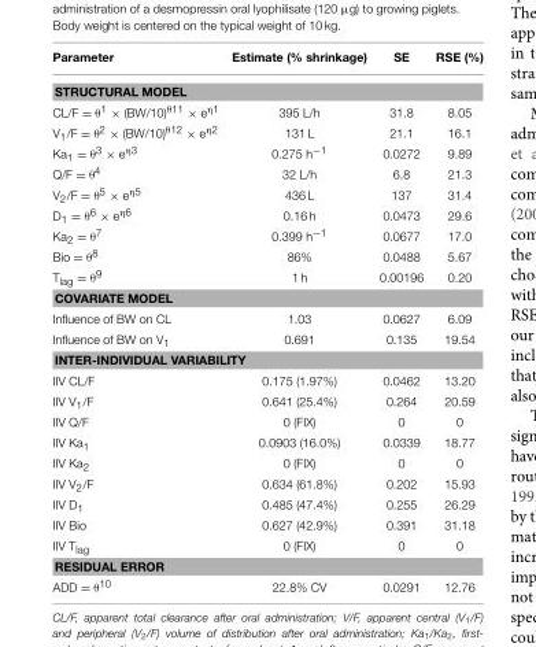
<table><thead><tr><td>Parameter</td><td>Estimate (% shrinkage)</td><td>SE</td><td>RSE (%)</td></tr></thead><tbody><tr><td colspan="4">STRUCTURAL MODEL</td></tr><tr><td>CL/F = θ<sup>1</sup> × (BW/10)<sup>θ11</sup> × e<sup>η1</sup></td><td>395 L/h</td><td>31.8</td><td>8.05</td></tr><tr><td>V<sub>1</sub>/F = θ<sup>2</sup> × (BW/10)<sup>θ12</sup> × e<sup>η2</sup></td><td>131 L</td><td>21.1</td><td>16.1</td></tr><tr><td>Ka<sub>1</sub> = θ<sup>3</sup> × e<sup>η3</sup></td><td>0.275 h<sup>−1</sup></td><td>0.0272</td><td>9.89</td></tr><tr><td>Q/F = θ<sup>4</sup></td><td>32 L/h</td><td>6.8</td><td>21.3</td></tr><tr><td>V<sub>2</sub>/F = θ<sup>5</sup> × e<sup>η5</sup></td><td>436 L</td><td>137</td><td>31.4</td></tr><tr><td>D<sub>1</sub> = θ<sup>6</sup> × e<sup>η6</sup></td><td>0.16 h</td><td>0.0473</td><td>29.6</td></tr><tr><td>Ka<sub>2</sub> = θ<sup>7</sup></td><td>0.399 h<sup>−1</sup></td><td>0.0677</td><td>17.0</td></tr><tr><td>Bio = θ<sup>8</sup></td><td>86%</td><td>0.0488</td><td>5.67</td></tr><tr><td>T<sub>lag</sub> = θ<sup>9</sup></td><td>1 h</td><td>0.00196</td><td>0.20</td></tr><tr><td colspan="4">COVARIATE MODEL</td></tr><tr><td>Influence of BW on CL</td><td>1.03</td><td>0.0627</td><td>6.09</td></tr><tr><td>Influence of BW on V<sub>1</sub></td><td>0.691</td><td>0.135</td><td>19.54</td></tr><tr><td colspan="4">INTER-INDIVIDUAL VARIABILITY</td></tr><tr><td>IIV CL/F</td><td>0.175 (1.97%)</td><td>0.0462</td><td>13.20</td></tr><tr><td>IIV V<sub>1</sub>/F</td><td>0.641 (25.4%)</td><td>0.264</td><td>20.59</td></tr><tr><td>IIV Q/F</td><td>0 (FIX)</td><td>0</td><td>0</td></tr><tr><td>IIV Ka<sub>1</sub></td><td>0.0903 (16.0%)</td><td>0.0339</td><td>18.77</td></tr><tr><td>IIV Ka<sub>2</sub></td><td>0 (FIX)</td><td>0</td><td>0</td></tr><tr><td>IIV V<sub>2</sub>/F</td><td>0.634 (61.8%)</td><td>0.202</td><td>15.93</td></tr><tr><td>IIV D<sub>1</sub></td><td>0.485 (47.4%)</td><td>0.255</td><td>26.29</td></tr><tr><td>IIV Bio</td><td>0.627 (42.9%)</td><td>0.391</td><td>31.18</td></tr><tr><td>IIV T<sub>lag</sub></td><td>0 (FIX)</td><td>0</td><td>0</td></tr><tr><td colspan="4">RESIDUAL ERROR</td></tr><tr><td>ADD = θ<sup>10</sup></td><td>22.8% CV</td><td>0.0291</td><td>12.76</td></tr></tbody></table>